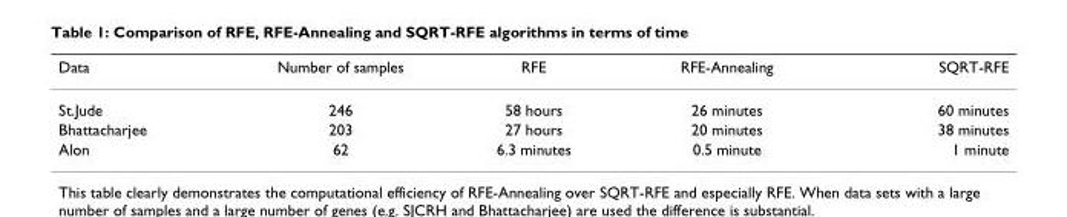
<table><thead><tr><td>Data</td><td>Number of samples</td><td>RFE</td><td>RFE-Annealing</td><td>SQRT-RFE</td></tr></thead><tbody><tr><td>St.Jude</td><td>246</td><td>58 hours</td><td>26 minutes</td><td>60 minutes</td></tr><tr><td>Bhattacharjee</td><td>203</td><td>27 hours</td><td>20 minutes</td><td>38 minutes</td></tr><tr><td>Alon</td><td>62</td><td>6.3 minutes</td><td>0.5 minute</td><td>1 minute</td></tr></tbody></table>